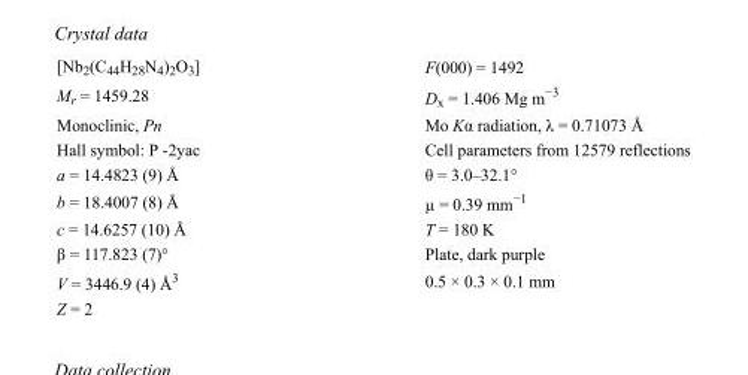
<table><tbody><tr><td>[Nb<sub>2</sub>(C<sub>44</sub>H<sub>28</sub>N<sub>4</sub>)<sub>2</sub>O<sub>3</sub>]</td><td>F(000) = 1492</td></tr><tr><td>M<sub>r</sub> = 1459.28</td><td>D<sub>x</sub> = 1.406 Mg m<sup>−3</sup></td></tr><tr><td>Monoclinic, Pn</td><td>Mo Kα radiation, λ = 0.71073 Å</td></tr><tr><td>Hall symbol: P -2yac</td><td>Cell parameters from 12579 reflections</td></tr><tr><td>a = 14.4823 (9) Å</td><td>θ = 3.0–32.1°</td></tr><tr><td>b = 18.4007 (8) Å</td><td>µ = 0.39 mm<sup>−1</sup></td></tr><tr><td>c = 14.6257 (10) Å</td><td>T = 180 K</td></tr><tr><td>β = 117.823 (7)°</td><td>Plate, dark purple</td></tr><tr><td>V = 3446.9 (4) Å<sup>3</sup></td><td>0.5 × 0.3 × 0.1 mm</td></tr><tr><td>Z = 2</td><td></td></tr></tbody></table>